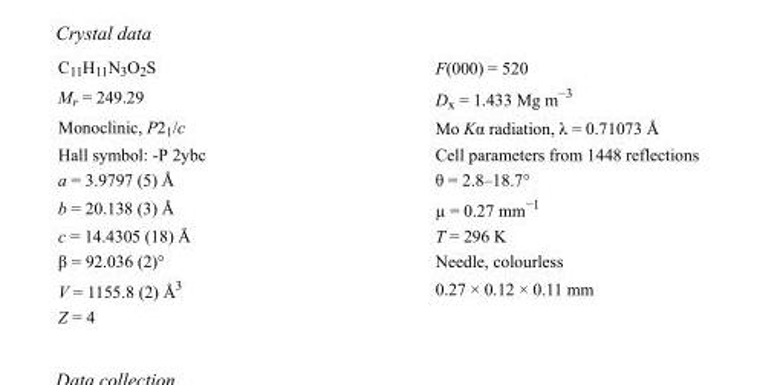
<table><tbody><tr><td>C<sub>11</sub>H<sub>11</sub>N<sub>3</sub>O<sub>2</sub>S</td><td>F(000) = 520</td></tr><tr><td>M<sub>r</sub> = 249.29</td><td>D<sub>x</sub> = 1.433 Mg m<sup>−3</sup></td></tr><tr><td>Monoclinic, P2<sub>1</sub>/c</td><td>Mo Kα radiation, λ = 0.71073 Å</td></tr><tr><td>Hall symbol: -P 2ybc</td><td>Cell parameters from 1448 reflections</td></tr><tr><td>a = 3.9797 (5) Å</td><td>θ = 2.8–18.7°</td></tr><tr><td>b = 20.138 (3) Å</td><td>µ = 0.27 mm<sup>−1</sup></td></tr><tr><td>c = 14.4305 (18) Å</td><td>T = 296 K</td></tr><tr><td>β = 92.036 (2)°</td><td>Needle, colourless</td></tr><tr><td>V = 1155.8 (2) Å<sup>3</sup></td><td>0.27 × 0.12 × 0.11 mm</td></tr><tr><td>Z = 4</td><td></td></tr></tbody></table>